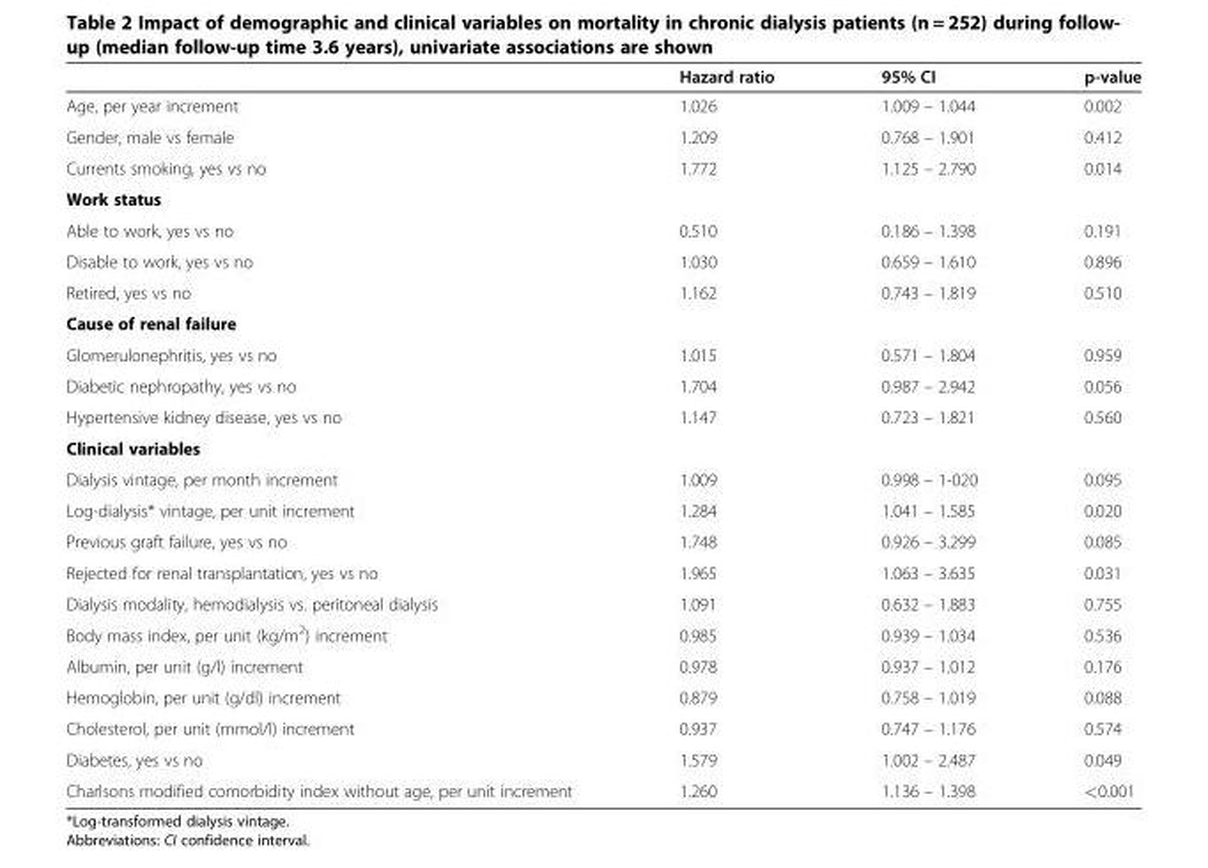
<table><thead><tr><td></td><td>Hazard ratio</td><td>95% CI</td><td>p-value</td></tr></thead><tbody><tr><td>Age, per year increment</td><td>1.026</td><td>1.009 – 1.044</td><td>0.002</td></tr><tr><td>Gender, male vs female</td><td>1.209</td><td>0.768 – 1.901</td><td>0.412</td></tr><tr><td>Currents smoking, yes vs no</td><td>1.772</td><td>1.125 – 2.790</td><td>0.014</td></tr><tr><td colspan="4">Work status</td></tr><tr><td>Able to work, yes vs no</td><td>0.510</td><td>0.186 – 1.398</td><td>0.191</td></tr><tr><td>Disable to work, yes vs no</td><td>1.030</td><td>0.659 – 1.610</td><td>0.896</td></tr><tr><td>Retired, yes vs no</td><td>1.162</td><td>0.743 – 1.819</td><td>0.510</td></tr><tr><td colspan="4">Cause of renal failure</td></tr><tr><td>Glomerulonephritis, yes vs no</td><td>1.015</td><td>0.571 – 1.804</td><td>0.959</td></tr><tr><td>Diabetic nephropathy, yes vs no</td><td>1.704</td><td>0.987 – 2.942</td><td>0.056</td></tr><tr><td>Hypertensive kidney disease, yes vs no</td><td>1.147</td><td>0.723 – 1.821</td><td>0.560</td></tr><tr><td colspan="4">Clinical variables</td></tr><tr><td>Dialysis vintage, per month increment</td><td>1.009</td><td>0.998 – 1-020</td><td>0.095</td></tr><tr><td>Log-dialysis* vintage, per unit increment</td><td>1.284</td><td>1.041 – 1.585</td><td>0.020</td></tr><tr><td>Previous graft failure, yes vs no</td><td>1.748</td><td>0.926 – 3.299</td><td>0.085</td></tr><tr><td>Rejected for renal transplantation, yes vs no</td><td>1.965</td><td>1.063 – 3.635</td><td>0.031</td></tr><tr><td>Dialysis modality, hemodialysis vs. peritoneal dialysis</td><td>1.091</td><td>0.632 – 1.883</td><td>0.755</td></tr><tr><td>Body mass index, per unit (kg/m<sup>2</sup>) increment</td><td>0.985</td><td>0.939 – 1.034</td><td>0.536</td></tr><tr><td>Albumin, per unit (g/l) increment</td><td>0.978</td><td>0.937 – 1.012</td><td>0.176</td></tr><tr><td>Hemoglobin, per unit (g/dl) increment</td><td>0.879</td><td>0.758 – 1.019</td><td>0.088</td></tr><tr><td>Cholesterol, per unit (mmol/l) increment</td><td>0.937</td><td>0.747 – 1.176</td><td>0.574</td></tr><tr><td>Diabetes, yes vs no</td><td>1.579</td><td>1.002 – 2.487</td><td>0.049</td></tr><tr><td>Charlsons modified comorbidity index without age, per unit increment</td><td>1.260</td><td>1.136 – 1.398</td><td>&lt;0.001</td></tr></tbody></table>